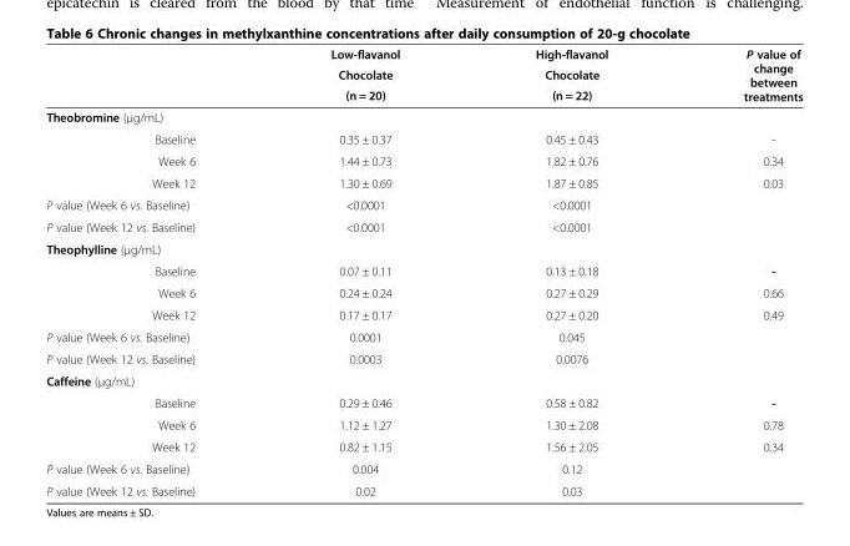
<table><thead><tr><td rowspan="3"></td><td rowspan="3">Low-flavanol Chocolate (n = 20)</td><td rowspan="3">High-flavanol Chocolate (n = 22)</td><td rowspan="3">P value of change between treatments</td></tr><tr></tr><tr></tr></thead><tbody><tr><td colspan="4">Theobromine (μg/mL)</td></tr><tr><td>Baseline</td><td>0.35 ± 0.37</td><td>0.45 ± 0.43</td><td>-</td></tr><tr><td>Week 6</td><td>1.44 ± 0.73</td><td>1.82 ± 0.76</td><td>0.34</td></tr><tr><td>Week 12</td><td>1.30 ± 0.69</td><td>1.87 ± 0.85</td><td>0.03</td></tr><tr><td>P value (Week 6 vs. Baseline)</td><td>&lt;0.0001</td><td>&lt;0.0001</td><td></td></tr><tr><td>P value (Week 12 vs. Baseline)</td><td>&lt;0.0001</td><td>&lt;0.0001</td><td></td></tr><tr><td colspan="4">Theophylline (μg/mL)</td></tr><tr><td>Baseline</td><td>0.07 ± 0.11</td><td>0.13 ± 0.18</td><td>-</td></tr><tr><td>Week 6</td><td>0.24 ± 0.24</td><td>0.27 ± 0.29</td><td>0.66</td></tr><tr><td>Week 12</td><td>0.17 ± 0.17</td><td>0.27 ± 0.20</td><td>0.49</td></tr><tr><td>P value (Week 6 vs. Baseline)</td><td>0.0001</td><td>0.045</td><td></td></tr><tr><td>P value (Week 12 vs. Baseline)</td><td>0.0003</td><td>0.0076</td><td></td></tr><tr><td colspan="4">Caffeine (μg/mL)</td></tr><tr><td>Baseline</td><td>0.29 ± 0.46</td><td>0.58 ± 0.82</td><td>-</td></tr><tr><td>Week 6</td><td>1.12 ± 1.27</td><td>1.30 ± 2.08</td><td>0.78</td></tr><tr><td>Week 12</td><td>0.82 ± 1.15</td><td>1.56 ± 2.05</td><td>0.34</td></tr><tr><td>P value (Week 6 vs. Baseline)</td><td>0.004</td><td>0.12</td><td></td></tr><tr><td>P value (Week 12 vs. Baseline)</td><td>0.02</td><td>0.03</td><td></td></tr></tbody></table>